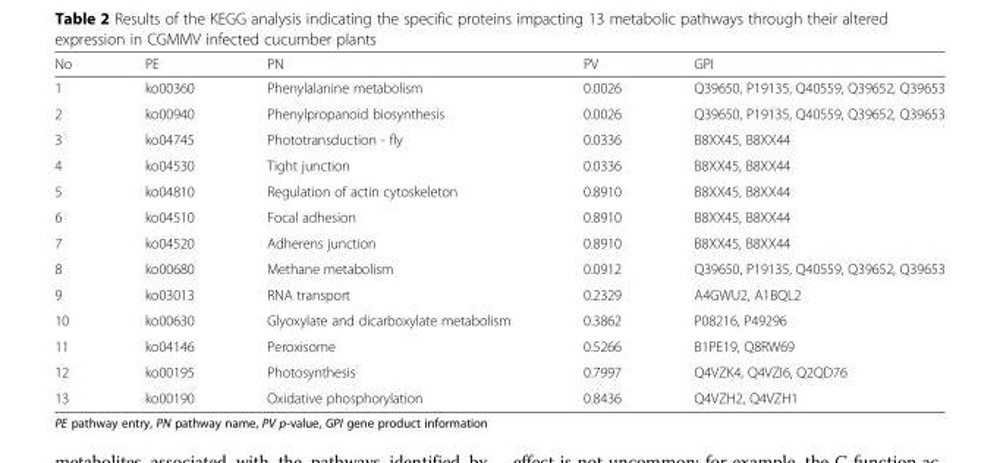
<table><thead><tr><td>No</td><td>PE</td><td>PN</td><td>PV</td><td>GPI</td></tr></thead><tbody><tr><td>1</td><td>ko00360</td><td>Phenylalanine metabolism</td><td>0.0026</td><td>Q39650, P19135, Q40559, Q39652, Q39653</td></tr><tr><td>2</td><td>ko00940</td><td>Phenylpropanoid biosynthesis</td><td>0.0026</td><td>Q39650, P19135, Q40559, Q39652, Q39653</td></tr><tr><td>3</td><td>ko04745</td><td>Phototransduction - fly</td><td>0.0336</td><td>B8XX45, B8XX44</td></tr><tr><td>4</td><td>ko04530</td><td>Tight junction</td><td>0.0336</td><td>B8XX45, B8XX44</td></tr><tr><td>5</td><td>ko04810</td><td>Regulation of actin cytoskeleton</td><td>0.8910</td><td>B8XX45, B8XX44</td></tr><tr><td>6</td><td>ko04510</td><td>Focal adhesion</td><td>0.8910</td><td>B8XX45, B8XX44</td></tr><tr><td>7</td><td>ko04520</td><td>Adherens junction</td><td>0.8910</td><td>B8XX45, B8XX44</td></tr><tr><td>8</td><td>ko00680</td><td>Methane metabolism</td><td>0.0912</td><td>Q39650, P19135, Q40559, Q39652, Q39653</td></tr><tr><td>9</td><td>ko03013</td><td>RNA transport</td><td>0.2329</td><td>A4GWU2, A1BQL2</td></tr><tr><td>10</td><td>ko00630</td><td>Glyoxylate and dicarboxylate metabolism</td><td>0.3862</td><td>P08216, P49296</td></tr><tr><td>11</td><td>ko04146</td><td>Peroxisome</td><td>0.5266</td><td>B1PE19, Q8RW69</td></tr><tr><td>12</td><td>ko00195</td><td>Photosynthesis</td><td>0.7997</td><td>Q4VZK4, Q4VZI6, Q2QD76</td></tr><tr><td>13</td><td>ko00190</td><td>Oxidative phosphorylation</td><td>0.8436</td><td>Q4VZH2, Q4VZH1</td></tr></tbody></table>